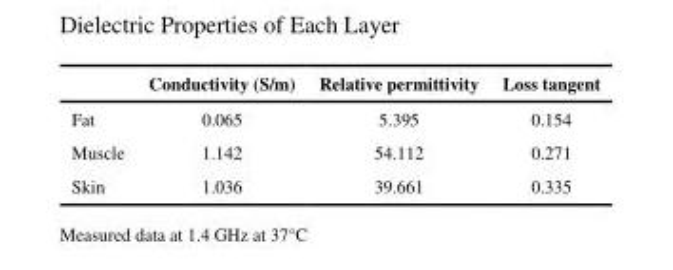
<table><thead><tr><td></td><td>Conductivity (S/m)</td><td>Relative permittivity</td><td>Loss tangent</td></tr></thead><tbody><tr><td>Fat</td><td>0.065</td><td>5.395</td><td>0.154</td></tr><tr><td>Muscle</td><td>1.142</td><td>54.112</td><td>0.271</td></tr><tr><td>Skin</td><td>1.036</td><td>39.661</td><td>0.335</td></tr></tbody></table>